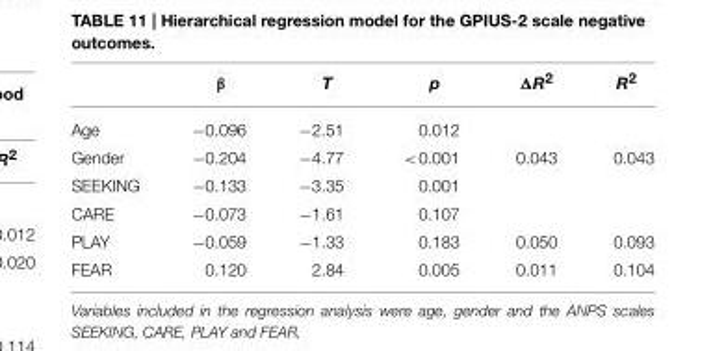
<table><thead><tr><td></td><td>β</td><td>T</td><td>p</td><td>ΔR<sup>2</sup></td><td>R<sup>2</sup></td></tr></thead><tbody><tr><td>Age</td><td>−0.096</td><td>−2.51</td><td>0.012</td><td></td><td></td></tr><tr><td>Gender</td><td>−0.204</td><td>−4.77</td><td>&lt;0.001</td><td>0.043</td><td>0.043</td></tr><tr><td>SEEKING</td><td>−0.133</td><td>−3.35</td><td>0.001</td><td></td><td></td></tr><tr><td>CARE</td><td>−0.073</td><td>−1.61</td><td>0.107</td><td></td><td></td></tr><tr><td>PLAY</td><td>−0.059</td><td>−1.33</td><td>0.183</td><td>0.050</td><td>0.093</td></tr><tr><td>FEAR</td><td>0.120</td><td>2.84</td><td>0.005</td><td>0.011</td><td>0.104</td></tr></tbody></table>